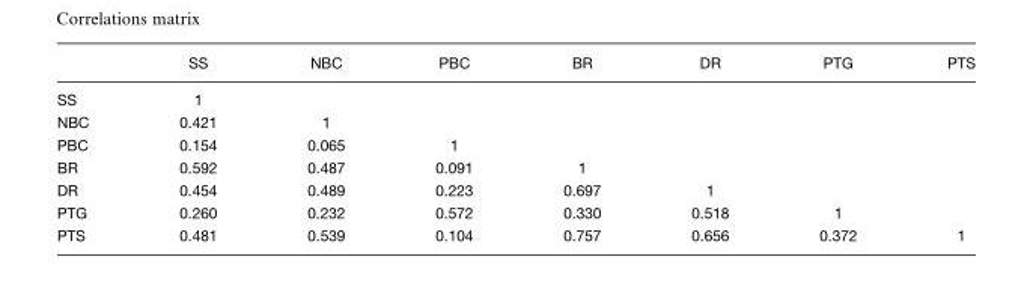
<table><thead><tr><td></td><td>SS</td><td>NBC</td><td>PBC</td><td>BR</td><td>DR</td><td>PTG</td><td>PTS</td></tr></thead><tbody><tr><td>SS</td><td>1</td><td></td><td></td><td></td><td></td><td></td><td></td></tr><tr><td>NBC</td><td>0.421</td><td>1</td><td></td><td></td><td></td><td></td><td></td></tr><tr><td>PBC</td><td>0.154</td><td>0.065</td><td>1</td><td></td><td></td><td></td><td></td></tr><tr><td>BR</td><td>0.592</td><td>0.487</td><td>0.091</td><td>1</td><td></td><td></td><td></td></tr><tr><td>DR</td><td>0.454</td><td>0.489</td><td>0.223</td><td>0.697</td><td>1</td><td></td><td></td></tr><tr><td>PTG</td><td>0.260</td><td>0.232</td><td>0.572</td><td>0.330</td><td>0.518</td><td>1</td><td></td></tr><tr><td>PTS</td><td>0.481</td><td>0.539</td><td>0.104</td><td>0.757</td><td>0.656</td><td>0.372</td><td>1</td></tr></tbody></table>